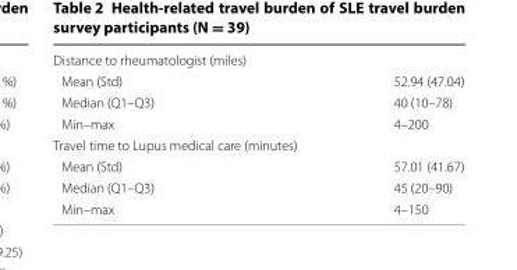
<table><tbody><tr><td colspan="2">Distance to rheumatologist (miles)</td></tr><tr><td>Mean (Std)</td><td>52.94 (47.04)</td></tr><tr><td>Median (Q1–Q3)</td><td>40 (10–78)</td></tr><tr><td>Min–max</td><td>4–200</td></tr><tr><td colspan="2">Travel time to Lupus medical care (minutes)</td></tr><tr><td>Mean (Std)</td><td>57.01 (41.67)</td></tr><tr><td>Median (Q1–Q3)</td><td>45 (20–90)</td></tr><tr><td>Min–max</td><td>4–150</td></tr></tbody></table>